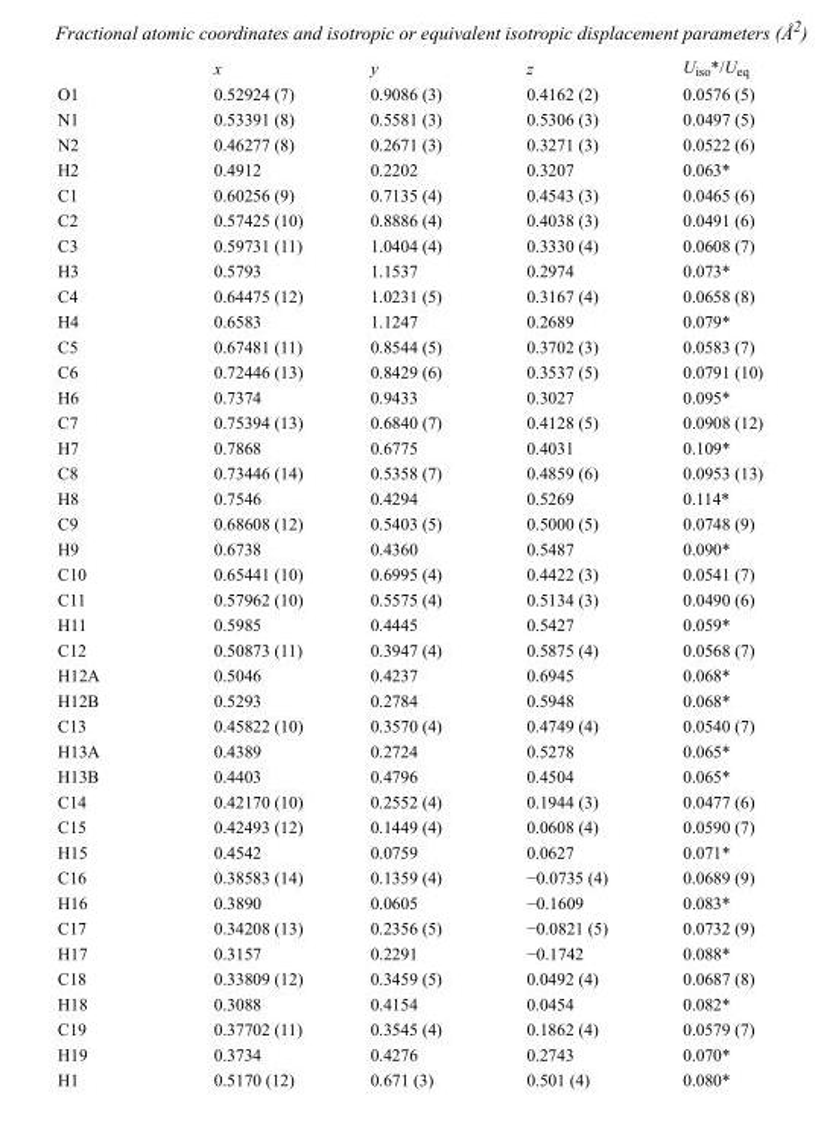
<table><thead><tr><td></td><td>x</td><td>y</td><td>z</td><td>U<sub>iso</sub>*/U<sub>eq</sub></td></tr></thead><tbody><tr><td>O1</td><td>0.52924 (7)</td><td>0.9086 (3)</td><td>0.4162 (2)</td><td>0.0576 (5)</td></tr><tr><td>N1</td><td>0.53391 (8)</td><td>0.5581 (3)</td><td>0.5306 (3)</td><td>0.0497 (5)</td></tr><tr><td>N2</td><td>0.46277 (8)</td><td>0.2671 (3)</td><td>0.3271 (3)</td><td>0.0522 (6)</td></tr><tr><td>H2</td><td>0.4912</td><td>0.2202</td><td>0.3207</td><td>0.063*</td></tr><tr><td>C1</td><td>0.60256 (9)</td><td>0.7135 (4)</td><td>0.4543 (3)</td><td>0.0465 (6)</td></tr><tr><td>C2</td><td>0.57425 (10)</td><td>0.8886 (4)</td><td>0.4038 (3)</td><td>0.0491 (6)</td></tr><tr><td>C3</td><td>0.59731 (11)</td><td>1.0404 (4)</td><td>0.3330 (4)</td><td>0.0608 (7)</td></tr><tr><td>H3</td><td>0.5793</td><td>1.1537</td><td>0.2974</td><td>0.073*</td></tr><tr><td>C4</td><td>0.64475 (12)</td><td>1.0231 (5)</td><td>0.3167 (4)</td><td>0.0658 (8)</td></tr><tr><td>H4</td><td>0.6583</td><td>1.1247</td><td>0.2689</td><td>0.079*</td></tr><tr><td>C5</td><td>0.67481 (11)</td><td>0.8544 (5)</td><td>0.3702 (3)</td><td>0.0583 (7)</td></tr><tr><td>C6</td><td>0.72446 (13)</td><td>0.8429 (6)</td><td>0.3537 (5)</td><td>0.0791 (10)</td></tr><tr><td>H6</td><td>0.7374</td><td>0.9433</td><td>0.3027</td><td>0.095*</td></tr><tr><td>C7</td><td>0.75394 (13)</td><td>0.6840 (7)</td><td>0.4128 (5)</td><td>0.0908 (12)</td></tr><tr><td>H7</td><td>0.7868</td><td>0.6775</td><td>0.4031</td><td>0.109*</td></tr><tr><td>C8</td><td>0.73446 (14)</td><td>0.5358 (7)</td><td>0.4859 (6)</td><td>0.0953 (13)</td></tr><tr><td>H8</td><td>0.7546</td><td>0.4294</td><td>0.5269</td><td>0.114*</td></tr><tr><td>C9</td><td>0.68608 (12)</td><td>0.5403 (5)</td><td>0.5000 (5)</td><td>0.0748 (9)</td></tr><tr><td>H9</td><td>0.6738</td><td>0.4360</td><td>0.5487</td><td>0.090*</td></tr><tr><td>C10</td><td>0.65441 (10)</td><td>0.6995 (4)</td><td>0.4422 (3)</td><td>0.0541 (7)</td></tr><tr><td>C11</td><td>0.57962 (10)</td><td>0.5575 (4)</td><td>0.5134 (3)</td><td>0.0490 (6)</td></tr><tr><td>H11</td><td>0.5985</td><td>0.4445</td><td>0.5427</td><td>0.059*</td></tr><tr><td>C12</td><td>0.50873 (11)</td><td>0.3947 (4)</td><td>0.5875 (4)</td><td>0.0568 (7)</td></tr><tr><td>H12A</td><td>0.5046</td><td>0.4237</td><td>0.6945</td><td>0.068*</td></tr><tr><td>H12B</td><td>0.5293</td><td>0.2784</td><td>0.5948</td><td>0.068*</td></tr><tr><td>C13</td><td>0.45822 (10)</td><td>0.3570 (4)</td><td>0.4749 (4)</td><td>0.0540 (7)</td></tr><tr><td>H13A</td><td>0.4389</td><td>0.2724</td><td>0.5278</td><td>0.065*</td></tr><tr><td>H13B</td><td>0.4403</td><td>0.4796</td><td>0.4504</td><td>0.065*</td></tr><tr><td>C14</td><td>0.42170 (10)</td><td>0.2552 (4)</td><td>0.1944 (3)</td><td>0.0477 (6)</td></tr><tr><td>C15</td><td>0.42493 (12)</td><td>0.1449 (4)</td><td>0.0608 (4)</td><td>0.0590 (7)</td></tr><tr><td>H15</td><td>0.4542</td><td>0.0759</td><td>0.0627</td><td>0.071*</td></tr><tr><td>C16</td><td>0.38583 (14)</td><td>0.1359 (4)</td><td>−0.0735 (4)</td><td>0.0689 (9)</td></tr><tr><td>H16</td><td>0.3890</td><td>0.0605</td><td>−0.1609</td><td>0.083*</td></tr><tr><td>C17</td><td>0.34208 (13)</td><td>0.2356 (5)</td><td>−0.0821 (5)</td><td>0.0732 (9)</td></tr><tr><td>H17</td><td>0.3157</td><td>0.2291</td><td>−0.1742</td><td>0.088*</td></tr><tr><td>C18</td><td>0.33809 (12)</td><td>0.3459 (5)</td><td>0.0492 (4)</td><td>0.0687 (8)</td></tr><tr><td>H18</td><td>0.3088</td><td>0.4154</td><td>0.0454</td><td>0.082*</td></tr><tr><td>C19</td><td>0.37702 (11)</td><td>0.3545 (4)</td><td>0.1862 (4)</td><td>0.0579 (7)</td></tr><tr><td>H19</td><td>0.3734</td><td>0.4276</td><td>0.2743</td><td>0.070*</td></tr><tr><td>H1</td><td>0.5170 (12)</td><td>0.671 (3)</td><td>0.501 (4)</td><td>0.080*</td></tr></tbody></table>